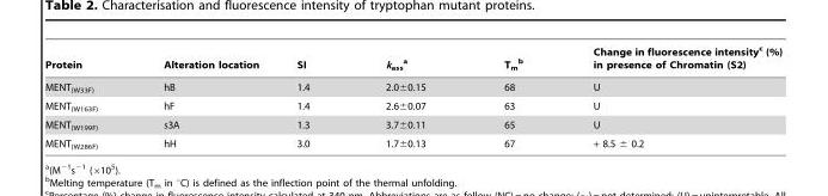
<table><thead><tr><td>Protein</td><td>Alteration location</td><td>SI</td><td>k<sub>ass</sub> a</td><td>T<sub>m</sub> b</td><td>Change in fluorescence intensity<sup>c</sup> (%) in presence of Chromatin (S2)</td></tr></thead><tbody><tr><td>MENT<sub>(W33F)</sub></td><td>hB</td><td>1.4</td><td>2.0±0.15</td><td>68</td><td>U</td></tr><tr><td>MENT<sub>(W163F)</sub></td><td>hF</td><td>1.4</td><td>2.6±0.07</td><td>63</td><td>U</td></tr><tr><td>MENT<sub>(W199F)</sub></td><td>s3A</td><td>1.3</td><td>3.7±0.11</td><td>65</td><td>U</td></tr><tr><td>MENT<sub>(W286F)</sub></td><td>hH</td><td>3.0</td><td>1.7±0.13</td><td>67</td><td>+ 8.5 ± 0.2</td></tr></tbody></table>